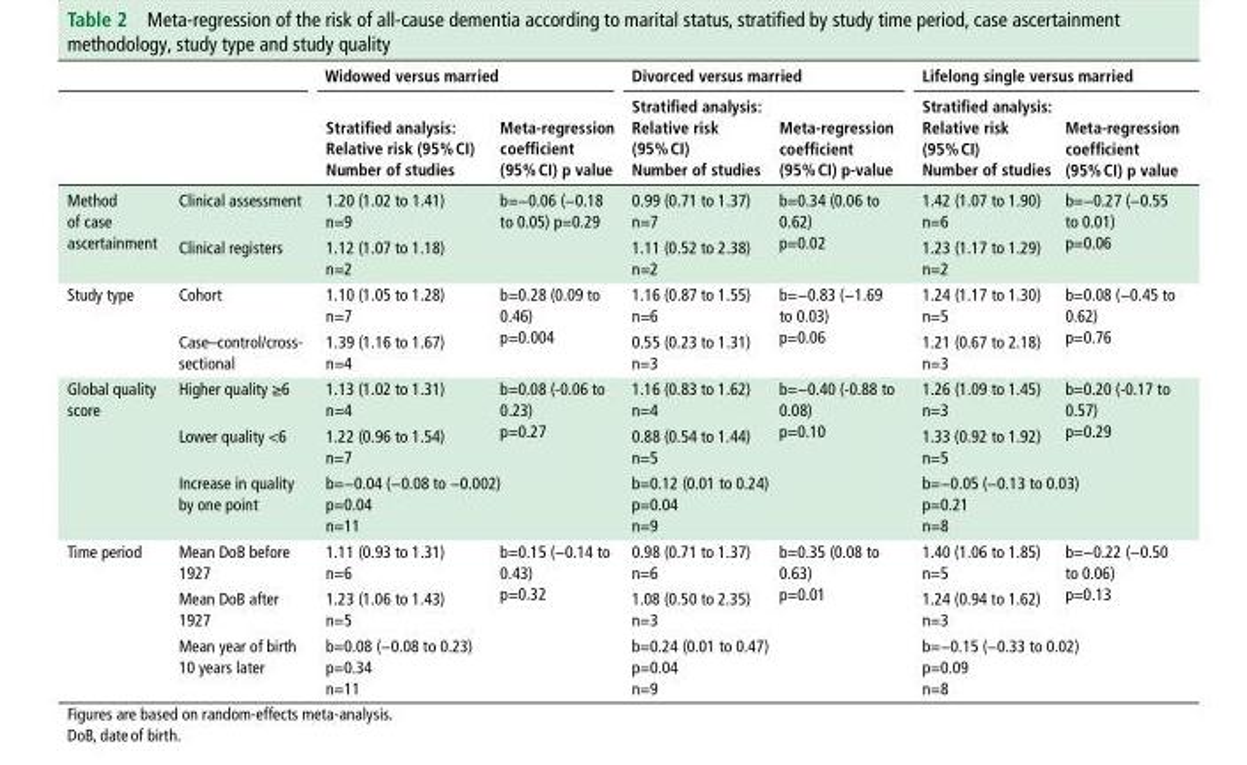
<table><thead><tr><td rowspan="2"></td><td rowspan="2"></td><td colspan="2">Widowed versus married</td><td colspan="2">divorced versus married</td><td colspan="2">lifelong single versus married</td></tr><tr><td>stratified analysis: relative risk (95% CI) number of studies</td><td>Meta-regression coefficient (95% CI) p value</td><td>stratified analysis: relative risk (95% CI) number of studies</td><td>Meta-regression coefficient (95% CI) p-value</td><td>stratified analysis: relative risk (95% CI) number of studies</td><td>Meta-regression coefficient (95% CI) p value</td></tr></thead><tbody><tr><td rowspan="2">Method of case ascertainment</td><td>Clinical assessment</td><td>1.20 (1.02 to 1.41) n=9</td><td rowspan="2">b=−0.06 (−0.18 to 0.05) p=0.29</td><td>0.99 (0.71 to 1.37) n=7</td><td rowspan="2">b=0.34 (0.06 to 0.62) p=0.02</td><td>1.42 (1.07 to 1.90) n=6</td><td rowspan="2">b=−0.27 (−0.55 to 0.01) p=0.06</td></tr><tr><td>Clinical registers</td><td>1.12 (1.07 to 1.18) n=2</td><td>1.11 (0.52 to 2.38) n=2</td><td>1.23 (1.17 to 1.29) n=2</td></tr><tr><td rowspan="2">Study type</td><td>Cohort</td><td>1.10 (1.05 to 1.28) n=7</td><td rowspan="2">b=0.28 (0.09 to 0.46) p=0.004</td><td>1.16 (0.87 to 1.55) n=6</td><td rowspan="2">b=−0.83 (−1.69 to 0.03) p=0.06</td><td>1.24 (1.17 to 1.30) n=5</td><td rowspan="2">b=0.08 (−0.45 to 0.62) p=0.76</td></tr><tr><td>Case–control/cross- sectional</td><td>1.39 (1.16 to 1.67) n=4</td><td>0.55 (0.23 to 1.31) n=3</td><td>1.21 (0.67 to 2.18) n=3</td></tr><tr><td rowspan="3">Global quality score</td><td>Higher quality ≥6</td><td>1.13 (1.02 to 1.31) n=4</td><td rowspan="2">b=0.08 (-0.06 to 0.23) p=0.27</td><td>1.16 (0.83 to 1.62) n=4</td><td rowspan="2">b=−0.40 (-0.88 to 0.08) p=0.10</td><td>1.26 (1.09 to 1.45) n=3</td><td rowspan="2">b=0.20 (-0.17 to 0.57) p=0.29</td></tr><tr><td>Lower quality &lt;6</td><td>1.22 (0.96 to 1.54) n=7</td><td>0.88 (0.54 to 1.44) n=5</td><td>1.33 (0.92 to 1.92) n=5</td></tr><tr><td>Increase in quality by one point</td><td colspan="2">b=−0.04 (−0.08 to −0.002) p=0.04 n=11</td><td colspan="2">b=0.12 (0.01 to 0.24) p=0.04 n=9</td><td colspan="2">b=−0.05 (−0.13 to 0.03) p=0.21 n=8</td></tr><tr><td rowspan="3">Time period</td><td>Mean DoB before 1927</td><td>1.11 (0.93 to 1.31) n=6</td><td rowspan="2">b=0.15 (−0.14 to 0.43) p=0.32</td><td>0.98 (0.71 to 1.37) n=6</td><td rowspan="2">b=0.35 (0.08 to 0.63) p=0.01</td><td>1.40 (1.06 to 1.85) n=5</td><td rowspan="2">b=−0.22 (−0.50 to 0.06) p=0.13</td></tr><tr><td>Mean DoB after 1927</td><td>1.23 (1.06 to 1.43) n=5</td><td>1.08 (0.50 to 2.35) n=3</td><td>1.24 (0.94 to 1.62) n=3</td></tr><tr><td>Mean year of birth 10 years later</td><td colspan="2">b=0.08 (−0.08 to 0.23) p=0.34 n=11</td><td colspan="2">b=0.24 (0.01 to 0.47) p=0.04 n=9</td><td colspan="2">b=−0.15 (−0.33 to 0.02) p=0.09 n=8</td></tr></tbody></table>